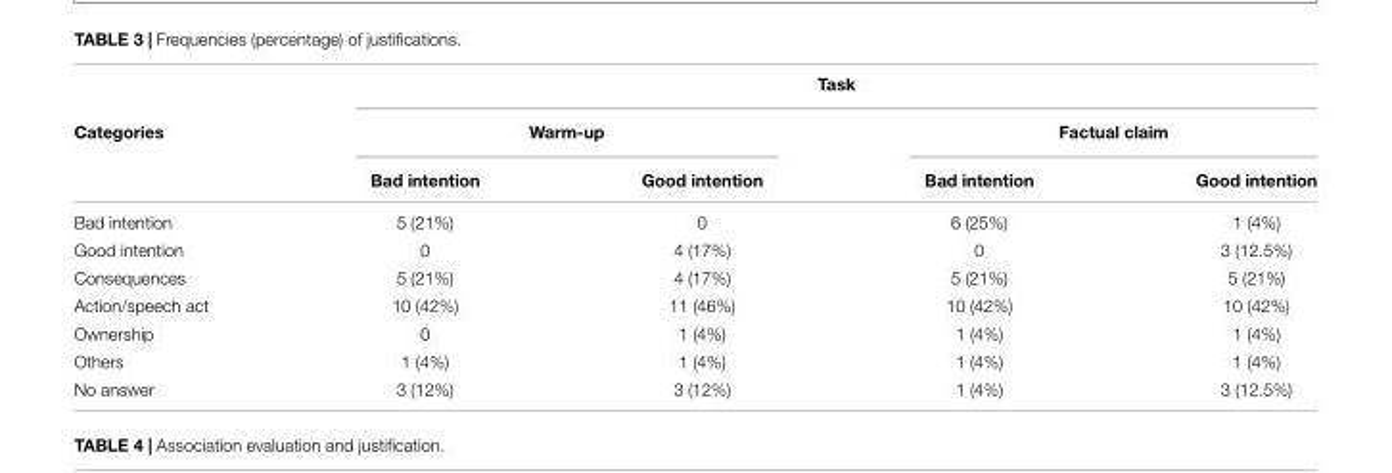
<table><thead><tr><td rowspan="3">Categories</td><td colspan="4">Task</td></tr><tr><td colspan="2">Warm-up</td><td colspan="2">Factual claim</td></tr><tr><td>Bad intention</td><td>Good intention</td><td>Bad intention</td><td>Good intention</td></tr></thead><tbody><tr><td>Bad intention</td><td>5 (21%)</td><td>0</td><td>6 (25%)</td><td>1 (4%)</td></tr><tr><td>Good intention</td><td>0</td><td>4 (17%)</td><td>0</td><td>3 (12.5%)</td></tr><tr><td>Consequences</td><td>5 (21%)</td><td>4 (17%)</td><td>5 (21%)</td><td>5 (21%)</td></tr><tr><td>Action/speech act</td><td>10 (42%)</td><td>11 (46%)</td><td>10 (42%)</td><td>10 (42%)</td></tr><tr><td>Ownership</td><td>0</td><td>1 (4%)</td><td>1 (4%)</td><td>1 (4%)</td></tr><tr><td>Others</td><td>1 (4%)</td><td>1 (4%)</td><td>1 (4%)</td><td>1 (4%)</td></tr><tr><td>No answer</td><td>3 (12%)</td><td>3 (12%)</td><td>1 (4%)</td><td>3 (12.5%)</td></tr></tbody></table>